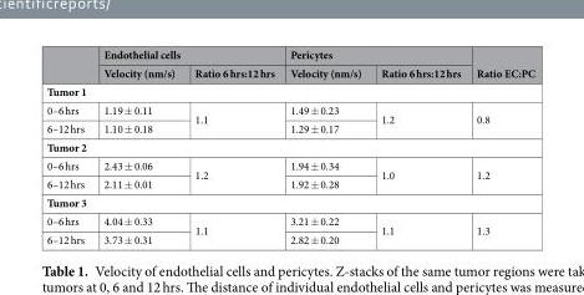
<table><thead><tr><td rowspan="2"></td><td colspan="2">Endothelial cells</td><td colspan="2">Pericytes</td><td rowspan="2">Ratio EC:PC</td></tr><tr><td>Velocity (nm/s)</td><td>Ratio 6 hrs:12 hrs</td><td>Velocity (nm/s)</td><td>Ratio 6 hrs:12 hrs</td></tr></thead><tbody><tr><td colspan="6">Tumor 1</td></tr><tr><td>0–6 hrs</td><td>1.19 ± 0.11</td><td rowspan="2">1.1</td><td>1.49 ± 0.23</td><td rowspan="2">1.2</td><td rowspan="2">0.8</td></tr><tr><td>6–12 hrs</td><td>1.10 ± 0.18</td><td>1.29 ± 0.17</td></tr><tr><td colspan="6">Tumor 2</td></tr><tr><td>0–6 hrs</td><td>2.43 ± 0.06</td><td rowspan="2">1.2</td><td>1.94 ± 0.34</td><td rowspan="2">1.0</td><td rowspan="2">1.2</td></tr><tr><td>6–12 hrs</td><td>2.11 ± 0.01</td><td>1.92 ± 0.28</td></tr><tr><td colspan="6">Tumor 3</td></tr><tr><td>0–6 hrs</td><td>4.04 ± 0.33</td><td rowspan="2">1.1</td><td>3.21 ± 0.22</td><td rowspan="2">1.1</td><td rowspan="2">1.3</td></tr><tr><td>6–12 hrs</td><td>3.73 ± 0.31</td><td>2.82 ± 0.20</td></tr></tbody></table>